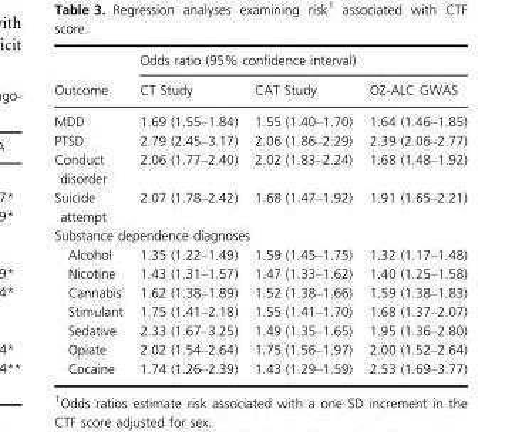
<table><thead><tr><td rowspan="2">Outcome</td><td colspan="3">Odds ratio (95% confidence interval)</td></tr><tr><td>CT Study</td><td>CAT Study</td><td>OZ-ALC GWAS</td></tr></thead><tbody><tr><td>MDD</td><td>1.69 (1.55–1.84)</td><td>1.55 (1.40–1.70)</td><td>1.64 (1.46–1.85)</td></tr><tr><td>PTSD</td><td>2.79 (2.45–3.17)</td><td>2.06 (1.86–2.29)</td><td>2.39 (2.06–2.77)</td></tr><tr><td>Conduct disorder</td><td>2.06 (1.77–2.40)</td><td>2.02 (1.83–2.24)</td><td>1.68 (1.48–1.92)</td></tr><tr><td>Suicide attempt</td><td>2.07 (1.78–2.42)</td><td>1.68 (1.47–1.92)</td><td>1.91 (1.65–2.21)</td></tr><tr><td colspan="4">Substance dependence diagnoses</td></tr><tr><td>Alcohol</td><td>1.35 (1.22–1.49)</td><td>1.59 (1.45–1.75)</td><td>1.32 (1.17–1.48)</td></tr><tr><td>Nicotine</td><td>1.43 (1.31–1.57)</td><td>1.47 (1.33–1.62)</td><td>1.40 (1.25–1.58)</td></tr><tr><td>Cannabis</td><td>1.62 (1.38–1.89)</td><td>1.52 (1.38–1.66)</td><td>1.59 (1.38–1.83)</td></tr><tr><td>Stimulant</td><td>1.75 (1.41–2.18)</td><td>1.55 (1.41–1.70)</td><td>1.68 (1.37–2.07)</td></tr><tr><td>Sedative</td><td>2.33 (1.67–3.25)</td><td>1.49 (1.35–1.65)</td><td>1.95 (1.36–2.80)</td></tr><tr><td>Opiate</td><td>2.02 (1.54–2.64)</td><td>1.75 (1.56–1.97)</td><td>2.00 (1.52–2.64)</td></tr><tr><td>Cocaine</td><td>1.74 (1.26–2.39)</td><td>1.43 (1.29–1.59)</td><td>2.53 (1.69–3.77)</td></tr></tbody></table>